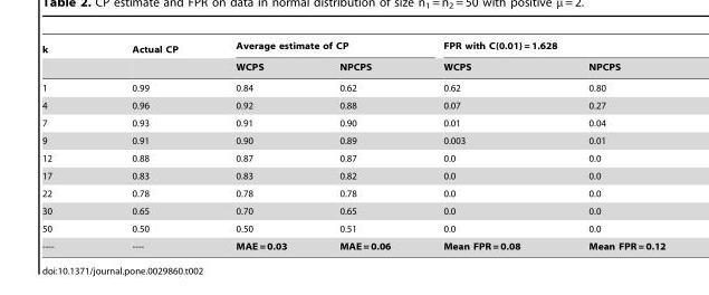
<table><thead><tr><td rowspan="2">k</td><td rowspan="2">Actual CP</td><td colspan="2">Average estimate of CP</td><td colspan="2">FPR with C(0.01) = 1.628</td></tr><tr><td>WCPS</td><td>NPCPS</td><td>WCPS</td><td>NPCPS</td></tr></thead><tbody><tr><td>1</td><td>0.99</td><td>0.84</td><td>0.62</td><td>0.62</td><td>0.80</td></tr><tr><td>4</td><td>0.96</td><td>0.92</td><td>0.88</td><td>0.07</td><td>0.27</td></tr><tr><td>7</td><td>0.93</td><td>0.91</td><td>0.90</td><td>0.01</td><td>0.04</td></tr><tr><td>9</td><td>0.91</td><td>0.90</td><td>0.89</td><td>0.003</td><td>0.01</td></tr><tr><td>12</td><td>0.88</td><td>0.87</td><td>0.87</td><td>0.0</td><td>0.0</td></tr><tr><td>17</td><td>0.83</td><td>0.83</td><td>0.82</td><td>0.0</td><td>0.0</td></tr><tr><td>22</td><td>0.78</td><td>0.78</td><td>0.78</td><td>0.0</td><td>0.0</td></tr><tr><td>30</td><td>0.65</td><td>0.70</td><td>0.65</td><td>0.0</td><td>0.0</td></tr><tr><td>50</td><td>0.50</td><td>0.50</td><td>0.51</td><td>0.0</td><td>0.0</td></tr><tr><td>----</td><td>----</td><td>MAE = 0.03</td><td>MAE = 0.06</td><td>Mean FPR = 0.08</td><td>Mean FPR = 0.12</td></tr></tbody></table>